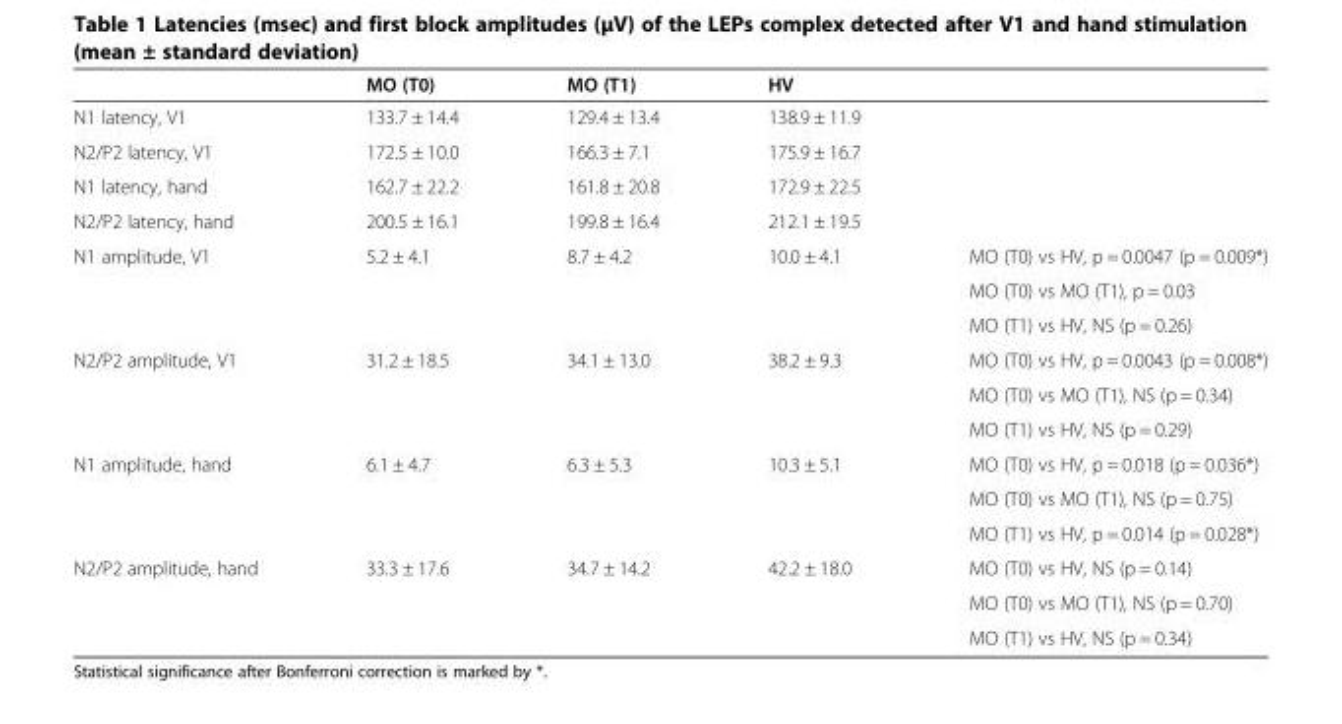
<table><thead><tr><td></td><td>MO (T0)</td><td>MO (T1)</td><td>HV</td><td></td></tr></thead><tbody><tr><td>N1 latency, V1</td><td>133.7 ± 14.4</td><td>129.4 ± 13.4</td><td>138.9 ± 11.9</td><td></td></tr><tr><td>N2/P2 latency, V1</td><td>172.5 ± 10.0</td><td>166.3 ± 7.1</td><td>175.9 ± 16.7</td><td></td></tr><tr><td>N1 latency, hand</td><td>162.7 ± 22.2</td><td>161.8 ± 20.8</td><td>172.9 ± 22.5</td><td></td></tr><tr><td>N2/P2 latency, hand</td><td>200.5 ± 16.1</td><td>199.8 ± 16.4</td><td>212.1 ± 19.5</td><td></td></tr><tr><td rowspan="3">N1 amplitude, V1</td><td rowspan="3">5.2 ± 4.1</td><td rowspan="3">8.7 ± 4.2</td><td rowspan="3">10.0 ± 4.1</td><td>MO (T0) vs HV, p = 0.0047 (p = 0.009*)</td></tr><tr><td>MO (T0) vs MO (T1), p = 0.03</td></tr><tr><td>MO (T1) vs HV, NS (p = 0.26)</td></tr><tr><td rowspan="3">N2/P2 amplitude, V1</td><td rowspan="3">31.2 ± 18.5</td><td rowspan="3">34.1 ± 13.0</td><td rowspan="3">38.2 ± 9.3</td><td>MO (T0) vs HV, p = 0.0043 (p = 0.008*)</td></tr><tr><td>MO (T0) vs MO (T1), NS (p = 0.34)</td></tr><tr><td>MO (T1) vs HV, NS (p = 0.29)</td></tr><tr><td rowspan="3">N1 amplitude, hand</td><td rowspan="3">6.1 ± 4.7</td><td rowspan="3">6.3 ± 5.3</td><td rowspan="3">10.3 ± 5.1</td><td>MO (T0) vs HV, p = 0.018 (p = 0.036*)</td></tr><tr><td>MO (T0) vs MO (T1), NS (p = 0.75)</td></tr><tr><td>MO (T1) vs HV, p = 0.014 (p = 0.028*)</td></tr><tr><td rowspan="3">N2/P2 amplitude, hand</td><td rowspan="2">33.3 ± 17.6</td><td rowspan="2">34.7 ± 14.2</td><td rowspan="2">42.2 ± 18.0</td><td>MO (T0) vs HV, NS (p = 0.14)</td></tr><tr><td>MO (T0) vs MO (T1), NS (p = 0.70)</td></tr><tr><td></td><td></td><td></td><td>MO (T1) vs HV, NS (p = 0.34)</td></tr></tbody></table>